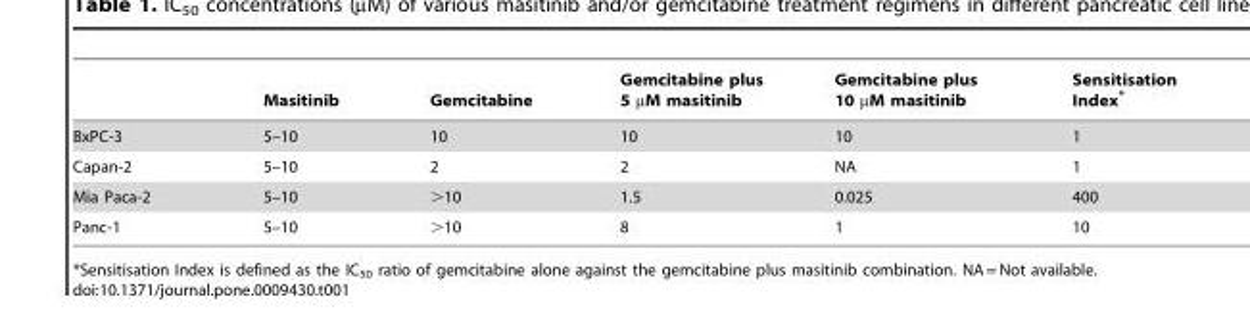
<table><thead><tr><td></td><td>Masitinib</td><td>Gemcitabine</td><td>Gemcitabine plus 5 µM masitinib</td><td>Gemcitabine plus 10 µM masitinib</td><td>Sensitisation Index*</td></tr></thead><tbody><tr><td>BxPC-3</td><td>5–10</td><td>10</td><td>10</td><td>10</td><td>1</td></tr><tr><td>Capan-2</td><td>5–10</td><td>2</td><td>2</td><td>NA</td><td>1</td></tr><tr><td>Mia Paca-2</td><td>5–10</td><td>&gt;10</td><td>1.5</td><td>0.025</td><td>400</td></tr><tr><td>Panc-1</td><td>5–10</td><td>&gt;10</td><td>8</td><td>1</td><td>10</td></tr></tbody></table>